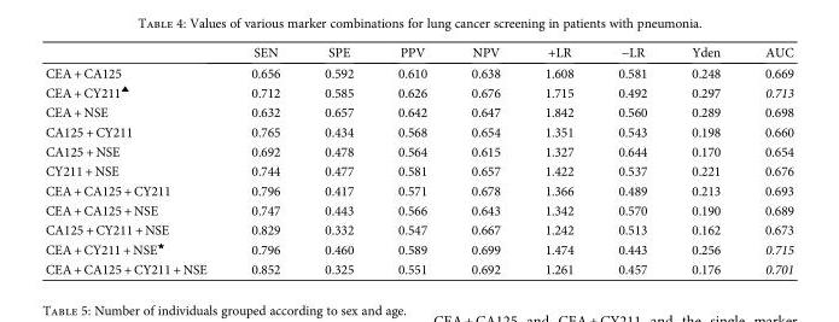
<table><thead><tr><td></td><td>SEN</td><td>SPE</td><td>PPV</td><td>NPV</td><td>+LR</td><td>−LR</td><td>Yden</td><td>AUC</td></tr></thead><tbody><tr><td>CEA + CA125</td><td>0.656</td><td>0.592</td><td>0.610</td><td>0.638</td><td>1.608</td><td>0.581</td><td>0.248</td><td>0.669</td></tr><tr><td>CEA + CY211<sup>▲</sup></td><td>0.712</td><td>0.585</td><td>0.626</td><td>0.676</td><td>1.715</td><td>0.492</td><td>0.297</td><td>0.713</td></tr><tr><td>CEA + NSE</td><td>0.632</td><td>0.657</td><td>0.642</td><td>0.647</td><td>1.842</td><td>0.560</td><td>0.289</td><td>0.698</td></tr><tr><td>CA125 + CY211</td><td>0.765</td><td>0.434</td><td>0.568</td><td>0.654</td><td>1.351</td><td>0.543</td><td>0.198</td><td>0.660</td></tr><tr><td>CA125 + NSE</td><td>0.692</td><td>0.478</td><td>0.564</td><td>0.615</td><td>1.327</td><td>0.644</td><td>0.170</td><td>0.654</td></tr><tr><td>CY211 + NSE</td><td>0.744</td><td>0.477</td><td>0.581</td><td>0.657</td><td>1.422</td><td>0.537</td><td>0.221</td><td>0.676</td></tr><tr><td>CEA + CA125 + CY211</td><td>0.796</td><td>0.417</td><td>0.571</td><td>0.678</td><td>1.366</td><td>0.489</td><td>0.213</td><td>0.693</td></tr><tr><td>CEA + CA125 + NSE</td><td>0.747</td><td>0.443</td><td>0.566</td><td>0.643</td><td>1.342</td><td>0.570</td><td>0.190</td><td>0.689</td></tr><tr><td>CA125 + CY211 + NSE</td><td>0.829</td><td>0.332</td><td>0.547</td><td>0.667</td><td>1.242</td><td>0.513</td><td>0.162</td><td>0.673</td></tr><tr><td>CEA + CY211 + NSE<sup>★</sup></td><td>0.796</td><td>0.460</td><td>0.589</td><td>0.699</td><td>1.474</td><td>0.443</td><td>0.256</td><td>0.715</td></tr><tr><td>CEA + CA125 + CY211 + NSE</td><td>0.852</td><td>0.325</td><td>0.551</td><td>0.692</td><td>1.261</td><td>0.457</td><td>0.176</td><td>0.701</td></tr></tbody></table>